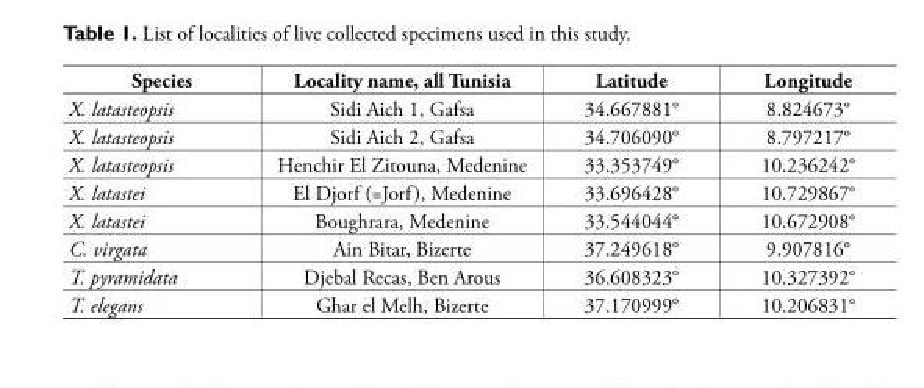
<table><thead><tr><td>Species</td><td>Locality name, all Tunisia</td><td>Latitude Longitude</td></tr></thead><tbody><tr><td>X. latasteopsis</td><td>Sidi Aich 1, Gafsa</td><td>34.667881° 8.824673°</td></tr><tr><td>X. latasteopsis</td><td>Sidi Aich 2, Gafsa</td><td>34.706090° 8.797217°</td></tr><tr><td>X. latasteopsis</td><td>Henchir El Zitouna, Medenine</td><td>33.353749° 10.236242°</td></tr><tr><td>X. latastei</td><td>El Djorf (=Jorf), Medenine</td><td>33.696428° 10.729867°</td></tr><tr><td>X. latastei</td><td>Boughrara, Medenine</td><td>33.544044° 10.672908°</td></tr><tr><td>C. virgata</td><td>Ain Bitar, Bizerte</td><td>37.249618° 9.907816°</td></tr><tr><td>T. pyramidata</td><td>Djebal Recas, Ben Arous</td><td>36.608323° 10.327392°</td></tr><tr><td>T. elegans</td><td>Ghar el Melh, Bizerte</td><td>37.170999° 10.206831°</td></tr></tbody></table>